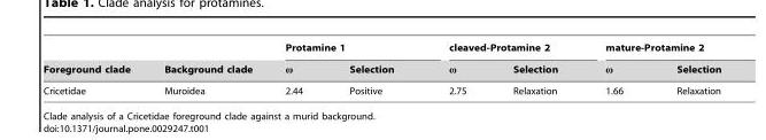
<table><thead><tr><td rowspan="2">Foreground clade</td><td rowspan="2">Background clade</td><td colspan="2">Protamine 1</td><td colspan="2">cleaved-Protamine 2</td><td colspan="2">mature-Protamine 2</td></tr><tr><td>ω</td><td>Selection</td><td>ω</td><td>Selection</td><td>ω</td><td>Selection</td></tr></thead><tbody><tr><td>Cricetidae</td><td>Muroidea</td><td>2.44</td><td>Positive</td><td>2.75</td><td>Relaxation</td><td>1.66</td><td>Relaxation</td></tr></tbody></table>